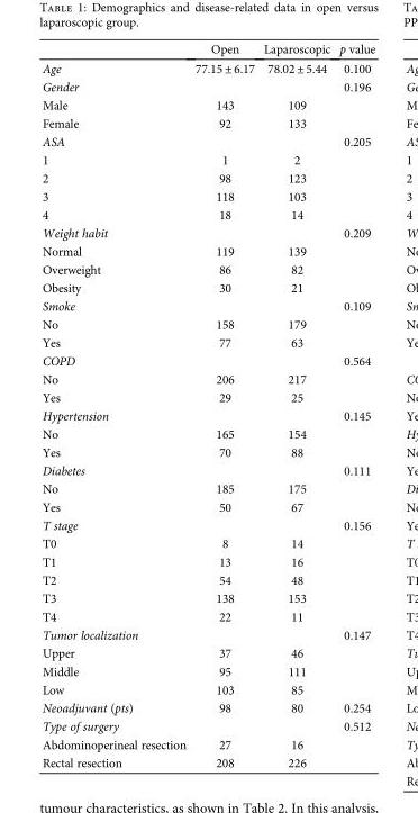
<table><thead><tr><td></td><td>Open</td><td>Laparoscopic</td><td>p value</td></tr></thead><tbody><tr><td>Age</td><td>77.15 ± 6.17</td><td>78.02 ± 5.44</td><td>0.100</td></tr><tr><td>Gender</td><td></td><td></td><td>0.196</td></tr><tr><td>Male</td><td>143</td><td>109</td><td></td></tr><tr><td>Female</td><td>92</td><td>133</td><td></td></tr><tr><td>ASA</td><td></td><td></td><td>0.205</td></tr><tr><td>1</td><td>1</td><td>2</td><td></td></tr><tr><td>2</td><td>98</td><td>123</td><td></td></tr><tr><td>3</td><td>118</td><td>103</td><td></td></tr><tr><td>4</td><td>18</td><td>14</td><td></td></tr><tr><td>Weight habit</td><td></td><td></td><td>0.209</td></tr><tr><td>Normal</td><td>119</td><td>139</td><td></td></tr><tr><td>Overweight</td><td>86</td><td>82</td><td></td></tr><tr><td>Obesity</td><td>30</td><td>21</td><td></td></tr><tr><td>Smoke</td><td></td><td></td><td>0.109</td></tr><tr><td>No</td><td>158</td><td>179</td><td></td></tr><tr><td>Yes</td><td>77</td><td>63</td><td></td></tr><tr><td>COPD</td><td></td><td></td><td>0.564</td></tr><tr><td>No</td><td>206</td><td>217</td><td></td></tr><tr><td>Yes</td><td>29</td><td>25</td><td></td></tr><tr><td>Hypertension</td><td></td><td></td><td>0.145</td></tr><tr><td>No</td><td>165</td><td>154</td><td></td></tr><tr><td>Yes</td><td>70</td><td>88</td><td></td></tr><tr><td>Diabetes</td><td></td><td></td><td>0.111</td></tr><tr><td>No</td><td>185</td><td>175</td><td></td></tr><tr><td>Yes</td><td>50</td><td>67</td><td></td></tr><tr><td>T stage</td><td></td><td></td><td>0.156</td></tr><tr><td>T0</td><td>8</td><td>14</td><td></td></tr><tr><td>T1</td><td>13</td><td>16</td><td></td></tr><tr><td>T2</td><td>54</td><td>48</td><td></td></tr><tr><td>T3</td><td>138</td><td>153</td><td></td></tr><tr><td>T4</td><td>22</td><td>11</td><td></td></tr><tr><td>Tumor localization</td><td></td><td></td><td>0.147</td></tr><tr><td>Upper</td><td>37</td><td>46</td><td></td></tr><tr><td>Middle</td><td>95</td><td>111</td><td></td></tr><tr><td>Low</td><td>103</td><td>85</td><td></td></tr><tr><td>Neoadjuvant (pts)</td><td>98</td><td>80</td><td>0.254</td></tr><tr><td>Type of surgery</td><td></td><td></td><td>0.512</td></tr><tr><td>Abdominoperineal resection</td><td>27</td><td>16</td><td></td></tr><tr><td>Rectal resection</td><td>208</td><td>226</td><td></td></tr></tbody></table>